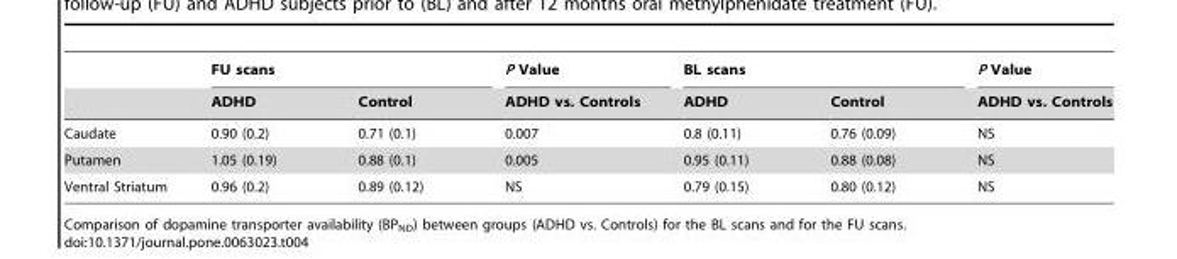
<table><thead><tr><td rowspan="2"></td><td colspan="2">FU scans</td><td rowspan="2">P Value ADHD vs. Controls</td><td colspan="2">BL scans</td><td rowspan="2">P Value ADHD vs. Controls</td></tr><tr><td>ADHD</td><td>Control</td><td>ADHD</td><td>Control</td></tr></thead><tbody><tr><td>Caudate</td><td>0.90 (0.2)</td><td>0.71 (0.1)</td><td>0.007</td><td>0.8 (0.11)</td><td>0.76 (0.09)</td><td>NS</td></tr><tr><td>Putamen</td><td>1.05 (0.19)</td><td>0.88 (0.1)</td><td>0.005</td><td>0.95 (0.11)</td><td>0.88 (0.08)</td><td>NS</td></tr><tr><td>Ventral Striatum</td><td>0.96 (0.2)</td><td>0.89 (0.12)</td><td>NS</td><td>0.79 (0.15)</td><td>0.80 (0.12)</td><td>NS</td></tr></tbody></table>